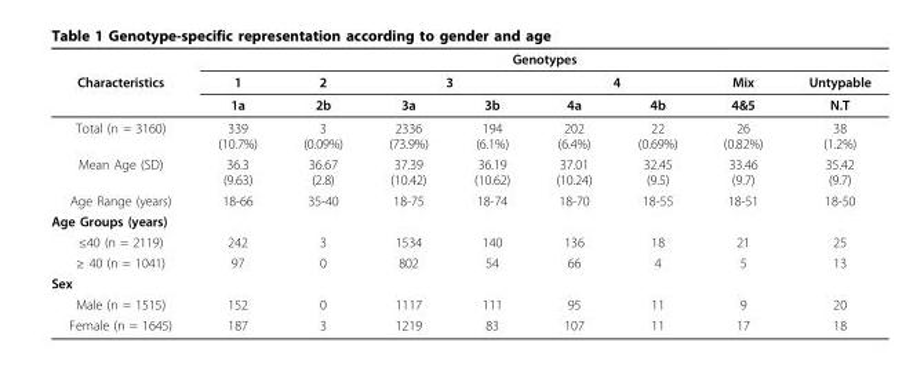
<table><thead><tr><td rowspan="3">Characteristics</td><td colspan="8">Genotypes</td></tr><tr><td rowspan="2">1 1a</td><td rowspan="2">2 2b</td><td colspan="2">3</td><td colspan="2">4</td><td rowspan="2">Mix 4&amp;5</td><td rowspan="2">Untypable N.T</td></tr><tr><td>3a</td><td>3b</td><td>4a</td><td>4b</td></tr></thead><tbody><tr><td>Total (n = 3160)</td><td>339 (10.7%)</td><td>3 (0.09%)</td><td>2336 (73.9%)</td><td>194 (6.1%)</td><td>202 (6.4%)</td><td>22 (0.69%)</td><td>26 (0.82%)</td><td>38 (1.2%)</td></tr><tr><td>Mean Age (SD)</td><td>36.3 (9.63)</td><td>36.67 (2.8)</td><td>37.39 (10.42)</td><td>36.19 (10.62)</td><td>37.01 (10.24)</td><td>32.45 (9.5)</td><td>33.46 (9.7)</td><td>35.42 (9.7)</td></tr><tr><td>Age Range (years)</td><td>18-66</td><td>35-40</td><td>18-75</td><td>18-74</td><td>18-70</td><td>18-55</td><td>18-51</td><td>18-50</td></tr><tr><td colspan="9">Age Groups (years)</td></tr><tr><td>≤40 (n = 2119)</td><td>242</td><td>3</td><td>1534</td><td>140</td><td>136</td><td>18</td><td>21</td><td>25</td></tr><tr><td>≥ 40 (n = 1041)</td><td>97</td><td>0</td><td>802</td><td>54</td><td>66</td><td>4</td><td>5</td><td>13</td></tr><tr><td colspan="9">Sex</td></tr><tr><td>Male (n = 1515)</td><td>152</td><td>0</td><td>1117</td><td>111</td><td>95</td><td>11</td><td>9</td><td>20</td></tr><tr><td>Female (n = 1645)</td><td>187</td><td>3</td><td>1219</td><td>83</td><td>107</td><td>11</td><td>17</td><td>18</td></tr></tbody></table>